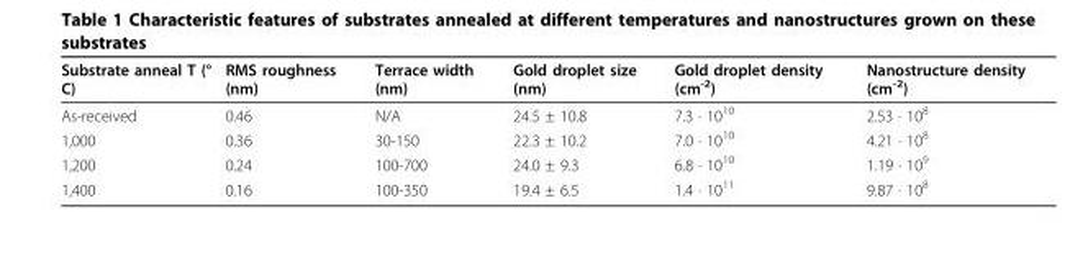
<table><thead><tr><td>Substrate anneal T (° C)</td><td>RMS roughness (nm)</td><td>Terrace width (nm)</td><td>Gold droplet size (nm)</td><td>Gold droplet density (cm<sup>-2</sup>)</td><td>Nanostructure density (cm<sup>-2</sup>)</td></tr></thead><tbody><tr><td>As-received</td><td>0.46</td><td>N/A</td><td>24.5 ± 10.8</td><td>7.3 · 10<sup>10</sup></td><td>2.53 · 10<sup>8</sup></td></tr><tr><td>1,000</td><td>0.36</td><td>30-150</td><td>22.3 ± 10.2</td><td>7.0 · 10<sup>10</sup></td><td>4.21 · 10<sup>8</sup></td></tr><tr><td>1,200</td><td>0.24</td><td>100-700</td><td>24.0 ± 9.3</td><td>6.8 · 10<sup>10</sup></td><td>1.19 · 10<sup>9</sup></td></tr><tr><td>1,400</td><td>0.16</td><td>100-350</td><td>19.4 ± 6.5</td><td>1.4 · 10<sup>11</sup></td><td>9.87 · 10<sup>8</sup></td></tr></tbody></table>